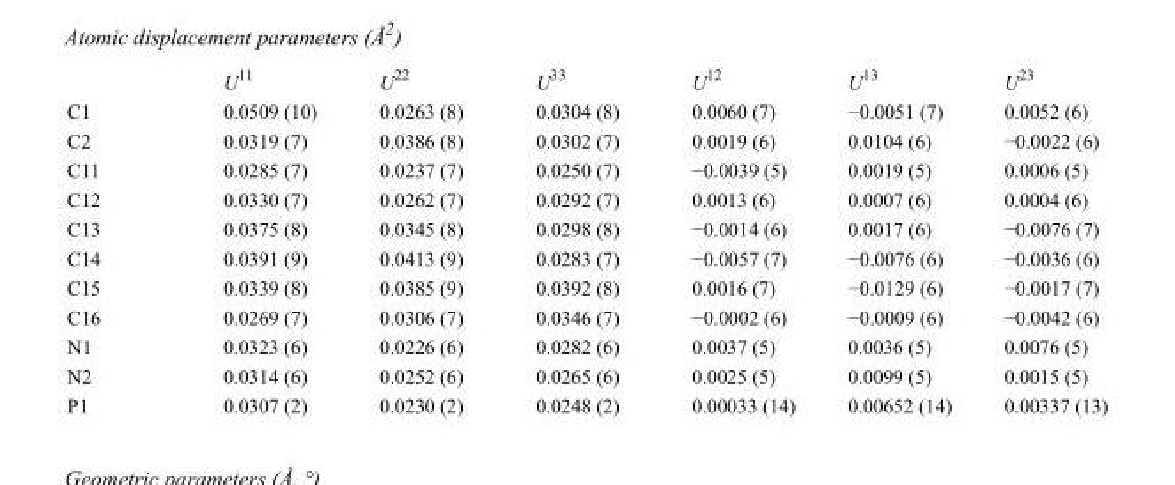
<table><thead><tr><td></td><td>U<sup>11</sup></td><td>U<sup>22</sup></td><td>U<sup>33</sup></td><td>U<sup>12</sup></td><td>U<sup>13</sup></td><td>U<sup>23</sup></td></tr></thead><tbody><tr><td>C1</td><td>0.0509 (10)</td><td>0.0263 (8)</td><td>0.0304 (8)</td><td>0.0060 (7)</td><td>−0.0051 (7)</td><td>0.0052 (6)</td></tr><tr><td>C2</td><td>0.0319 (7)</td><td>0.0386 (8)</td><td>0.0302 (7)</td><td>0.0019 (6)</td><td>0.0104 (6)</td><td>−0.0022 (6)</td></tr><tr><td>C11</td><td>0.0285 (7)</td><td>0.0237 (7)</td><td>0.0250 (7)</td><td>−0.0039 (5)</td><td>0.0019 (5)</td><td>0.0006 (5)</td></tr><tr><td>C12</td><td>0.0330 (7)</td><td>0.0262 (7)</td><td>0.0292 (7)</td><td>0.0013 (6)</td><td>0.0007 (6)</td><td>0.0004 (6)</td></tr><tr><td>C13</td><td>0.0375 (8)</td><td>0.0345 (8)</td><td>0.0298 (8)</td><td>−0.0014 (6)</td><td>0.0017 (6)</td><td>−0.0076 (7)</td></tr><tr><td>C14</td><td>0.0391 (9)</td><td>0.0413 (9)</td><td>0.0283 (7)</td><td>−0.0057 (7)</td><td>−0.0076 (6)</td><td>−0.0036 (6)</td></tr><tr><td>C15</td><td>0.0339 (8)</td><td>0.0385 (9)</td><td>0.0392 (8)</td><td>0.0016 (7)</td><td>−0.0129 (6)</td><td>−0.0017 (7)</td></tr><tr><td>C16</td><td>0.0269 (7)</td><td>0.0306 (7)</td><td>0.0346 (7)</td><td>−0.0002 (6)</td><td>−0.0009 (6)</td><td>−0.0042 (6)</td></tr><tr><td>N1</td><td>0.0323 (6)</td><td>0.0226 (6)</td><td>0.0282 (6)</td><td>0.0037 (5)</td><td>0.0036 (5)</td><td>0.0076 (5)</td></tr><tr><td>N2</td><td>0.0314 (6)</td><td>0.0252 (6)</td><td>0.0265 (6)</td><td>0.0025 (5)</td><td>0.0099 (5)</td><td>0.0015 (5)</td></tr><tr><td>P1</td><td>0.0307 (2)</td><td>0.0230 (2)</td><td>0.0248 (2)</td><td>0.00033 (14)</td><td>0.00652 (14)</td><td>0.00337 (13)</td></tr></tbody></table>